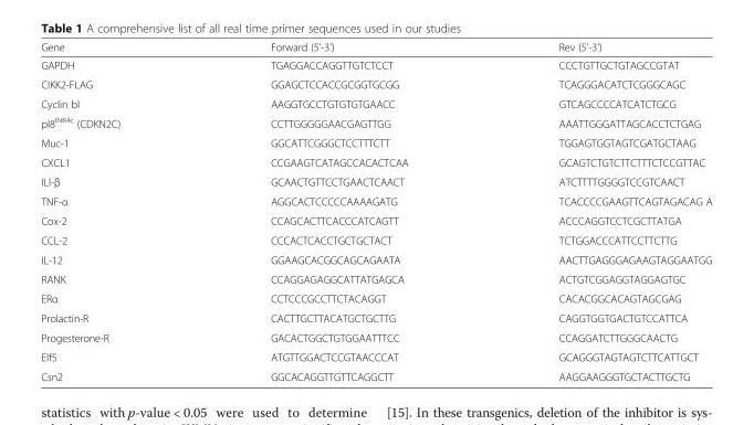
<table><thead><tr><td>Gene</td><td>Forward (5&#x27;-3&#x27;)</td><td>Rev (5&#x27;-3&#x27;)</td></tr></thead><tbody><tr><td>GAPDH</td><td>TGAGGACCAGGTTGTCTCCT</td><td>CCCTGTTGCTGTAGCCGTAT</td></tr><tr><td>CIKK2-FLAG</td><td>GGAGCTCCACCGCGGTGCGG</td><td>TCAGGGACATCTCGGGCAGC</td></tr><tr><td>Cyclin bl</td><td>AAGGTGCCTGTGTGTGAACC</td><td>GTCAGCCCCATCATCTGCG</td></tr><tr><td>pl8<sup>INK4c</sup> (CDKN2C)</td><td>CCTTGGGGGAACGAGTTGG</td><td>AAATTGGGATTAGCACCTCTGAG</td></tr><tr><td>Muc-1</td><td>GGCATTCGGGCTCCTTTCTT</td><td>TGGAGTGGTAGTCGATGCTAAG</td></tr><tr><td>CXCL1</td><td>CCGAAGTCATAGCCACACTCAA</td><td>GCAGTCTGTCTTCTTTCTCCGTTAC</td></tr><tr><td>ILl-β</td><td>GCAACTGTTCCTGAACTCAACT</td><td>ATCTTTTGGGGTCCGTCAACT</td></tr><tr><td>TNF-α</td><td>AGGCACTCCCCCAAAAGATG</td><td>TCACCCCGAAGTTCAGTAGACAG A</td></tr><tr><td>Cox-2</td><td>CCAGCACTTCACCCATCAGTT</td><td>ACCCAGGTCCTCGCTTATGA</td></tr><tr><td>CCL-2</td><td>CCCACTCACCTGCTGCTACT</td><td>TCTGGACCCATTCCTTCTTG</td></tr><tr><td>IL-12</td><td>GGAAGCACGGCAGCAGAATA</td><td>AACTTGAGGGAGAAGTAGGAATGG</td></tr><tr><td>RANK</td><td>CCAGGAGAGGCATTATGAGCA</td><td>ACTGTCGGAGGTAGGAGTGC</td></tr><tr><td>ERα</td><td>CCTCCCGCCTTCTACAGGT</td><td>CACACGGCACAGTAGCGAG</td></tr><tr><td>Prolactin-R</td><td>CACTTGCTTACATGCTGCTTG</td><td>CAGGTGGTGACTGTCCATTCA</td></tr><tr><td>Progesterone-R</td><td>GACACTGGCTGTGGAATTTCC</td><td>CCAGGATCTTGGGCAACTG</td></tr><tr><td>Elf5</td><td>ATGTTGGACTCCGTAACCCAT</td><td>GCAGGGTAGTAGTCTTCATTGCT</td></tr><tr><td>Csn2</td><td>GGCACAGGTTGTTCAGGCTT</td><td>AAGGAAGGGTGCTACTTGCTG</td></tr></tbody></table>